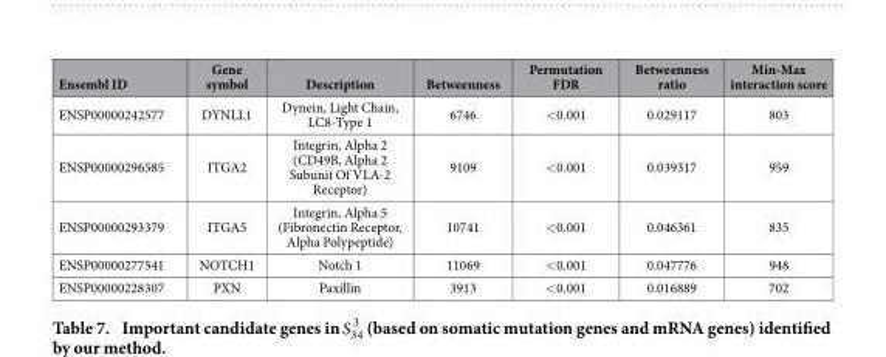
<table><thead><tr><td>Ensembl ID</td><td>Gene symbol</td><td>Description</td><td>Betweenness</td><td>Permutation FDR</td><td>Betweenness ratio</td><td>Min-Max interaction score</td></tr></thead><tbody><tr><td>ENSP00000242577</td><td>DYNLL1</td><td>Dynein, Light Chain, LC8-Type 1</td><td>6746</td><td>&lt; 0.001</td><td>0.029117</td><td>803</td></tr><tr><td>ENSP00000296585</td><td>ITGA2</td><td>Integrin, Alpha 2 (CD49B, Alpha 2 Subunit Of VLA-2 Receptor)</td><td>9109</td><td>&lt; 0.001</td><td>0.039317</td><td>959</td></tr><tr><td>ENSP00000293379</td><td>ITGA5</td><td>Integrin, Alpha 5 (Fibronectin Receptor, Alpha Polypeptide)</td><td>10741</td><td>&lt; 0.001</td><td>0.046361</td><td>835</td></tr><tr><td>ENSP00000277541</td><td>NOTCH1</td><td>Notch 1</td><td>11069</td><td>&lt; 0.001</td><td>0.047776</td><td>948</td></tr><tr><td>ENSP00000228307</td><td>PXN</td><td>Paxillin</td><td>3913</td><td>&lt; 0.001</td><td>0.016889</td><td>702</td></tr></tbody></table>